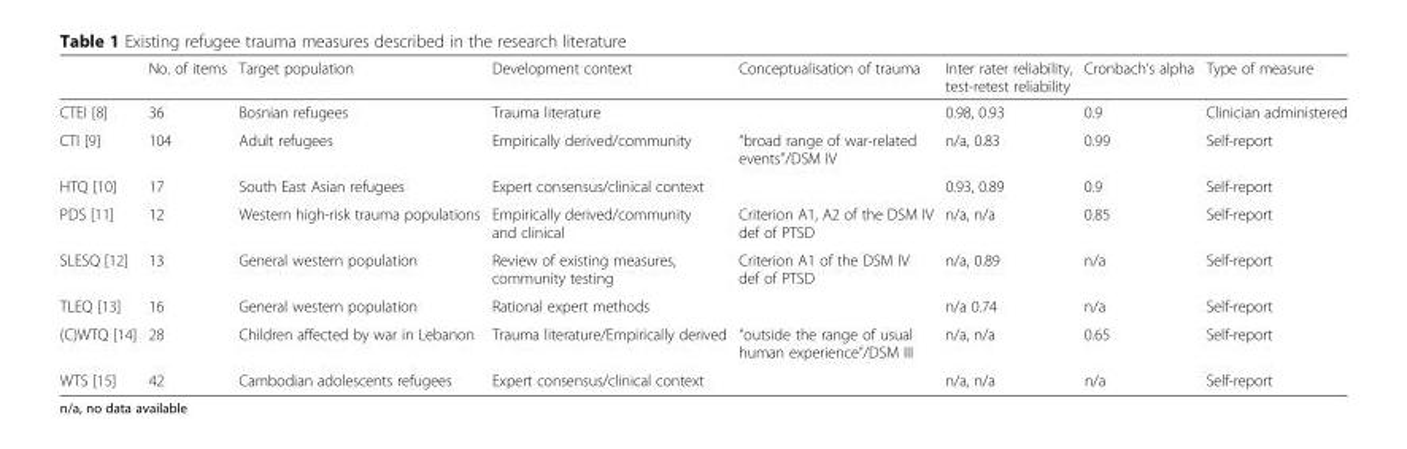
<table><thead><tr><td></td><td>No. of items</td><td>Target population</td><td>Development context</td><td>Conceptualisation of trauma</td><td>Inter rater reliability, test-retest reliability</td><td>Cronbach’s alpha</td><td>Type of measure</td></tr></thead><tbody><tr><td>CTEI [8]</td><td>36</td><td>Bosnian refugees</td><td>Trauma literature</td><td></td><td>0.98, 0.93</td><td>0.9</td><td>Clinician administered</td></tr><tr><td>CTI [9]</td><td>104</td><td>Adult refugees</td><td>Empirically derived/community</td><td>“broad range of war-related events”/DSM IV</td><td>n/a, 0.83</td><td>0.99</td><td>Self-report</td></tr><tr><td>HTQ [10]</td><td>17</td><td>South East Asian refugees</td><td>Expert consensus/clinical context</td><td></td><td>0.93, 0.89</td><td>0.9</td><td>Self-report</td></tr><tr><td>PDS [11]</td><td>12</td><td>Western high-risk trauma populations</td><td>Empirically derived/community and clinical</td><td>Criterion A1, A2 of the DSM IV def of PTSD</td><td>n/a, n/a</td><td>0.85</td><td>Self-report</td></tr><tr><td>SLESQ [12]</td><td>13</td><td>General western population</td><td>Review of existing measures, community testing</td><td>Criterion A1 of the DSM IV def of PTSD</td><td>n/a, 0.89</td><td>n/a</td><td>Self-report</td></tr><tr><td>TLEQ [13]</td><td>16</td><td>General western population</td><td>Rational expert methods</td><td></td><td>n/a 0.74</td><td>n/a</td><td>Self-report</td></tr><tr><td>(C)WTQ [14]</td><td>28</td><td>Children affected by war in Lebanon</td><td>Trauma literature/Empirically derived</td><td>“outside the range of usual human experience”/DSM III</td><td>n/a, n/a</td><td>0.65</td><td>Self-report</td></tr><tr><td>WTS [15]</td><td>42</td><td>Cambodian adolescents refugees</td><td>Expert consensus/clinical context</td><td></td><td>n/a, n/a</td><td>n/a</td><td>Self-report</td></tr></tbody></table>